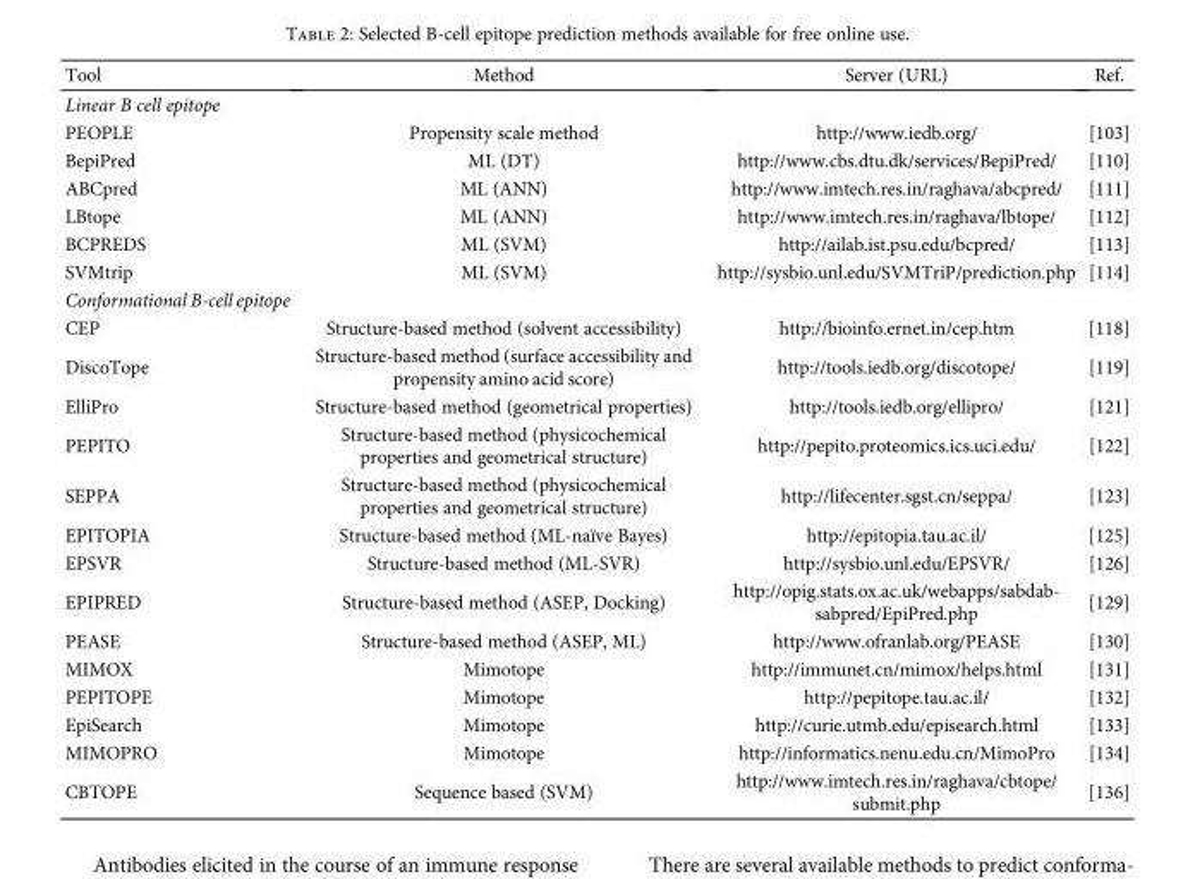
<table><thead><tr><td>Tool</td><td>Method</td><td>Server (URL)</td><td>Ref.</td></tr></thead><tbody><tr><td colspan="4">Linear B cell epitope</td></tr><tr><td>PEOPLE</td><td>Propensity scale method</td><td>http://www.iedb.org/</td><td>[103]</td></tr><tr><td>BepiPred</td><td>ML (DT)</td><td>http://www.cbs.dtu.dk/services/BepiPred/</td><td>[110]</td></tr><tr><td>ABCpred</td><td>ML (ANN)</td><td>http://www.imtech.res.in/raghava/abcpred/</td><td>[111]</td></tr><tr><td>LBtope</td><td>ML (ANN)</td><td>http://www.imtech.res.in/raghava/lbtope/</td><td>[112]</td></tr><tr><td>BCPREDS</td><td>ML (SVM)</td><td>http://ailab.ist.psu.edu/bcpred/</td><td>[113]</td></tr><tr><td>SVMtrip</td><td>ML (SVM)</td><td>http://sysbio.unl.edu/SVMTriP/prediction.php</td><td>[114]</td></tr><tr><td colspan="4">Conformational B-cell epitope</td></tr><tr><td>CEP</td><td>Structure-based method (solvent accessibility)</td><td>http://bioinfo.ernet.in/cep.htm</td><td>[118]</td></tr><tr><td>DiscoTope</td><td>Structure-based method (surface accessibility and propensity amino acid score)</td><td>http://tools.iedb.org/discotope/</td><td>[119]</td></tr><tr><td>ElliPro</td><td>Structure-based method (geometrical properties)</td><td>http://tools.iedb.org/ellipro/</td><td>[121]</td></tr><tr><td>PEPITO</td><td>Structure-based method (physicochemical properties and geometrical structure)</td><td>http://pepito.proteomics.ics.uci.edu/</td><td>[122]</td></tr><tr><td>SEPPA</td><td>Structure-based method (physicochemical properties and geometrical structure)</td><td>http://lifecenter.sgst.cn/seppa/</td><td>[123]</td></tr><tr><td>EPITOPIA</td><td>Structure-based method (ML-naïve Bayes)</td><td>http://epitopia.tau.ac.il/</td><td>[125]</td></tr><tr><td>EPSVR</td><td>Structure-based method (ML-SVR)</td><td>http://sysbio.unl.edu/EPSVR/</td><td>[126]</td></tr><tr><td>EPIPRED</td><td>Structure-based method (ASEP, Docking)</td><td>http://opig.stats.ox.ac.uk/webapps/sabdab- sabpred/EpiPred.php</td><td>[129]</td></tr><tr><td>PEASE</td><td>Structure-based method (ASEP, ML)</td><td>http://www.ofranlab.org/PEASE</td><td>[130]</td></tr><tr><td>MIMOX</td><td>Mimotope</td><td>http://immunet.cn/mimox/helps.html</td><td>[131]</td></tr><tr><td>PEPITOPE</td><td>Mimotope</td><td>http://pepitope.tau.ac.il/</td><td>[132]</td></tr><tr><td>EpiSearch</td><td>Mimotope</td><td>http://curie.utmb.edu/episearch.html</td><td>[133]</td></tr><tr><td>MIMOPRO</td><td>Mimotope</td><td>http://informatics.nenu.edu.cn/MimoPro</td><td>[134]</td></tr><tr><td>CBTOPE</td><td>Sequence based (SVM)</td><td>http://www.imtech.res.in/raghava/cbtope/ submit.php</td><td>[136]</td></tr></tbody></table>